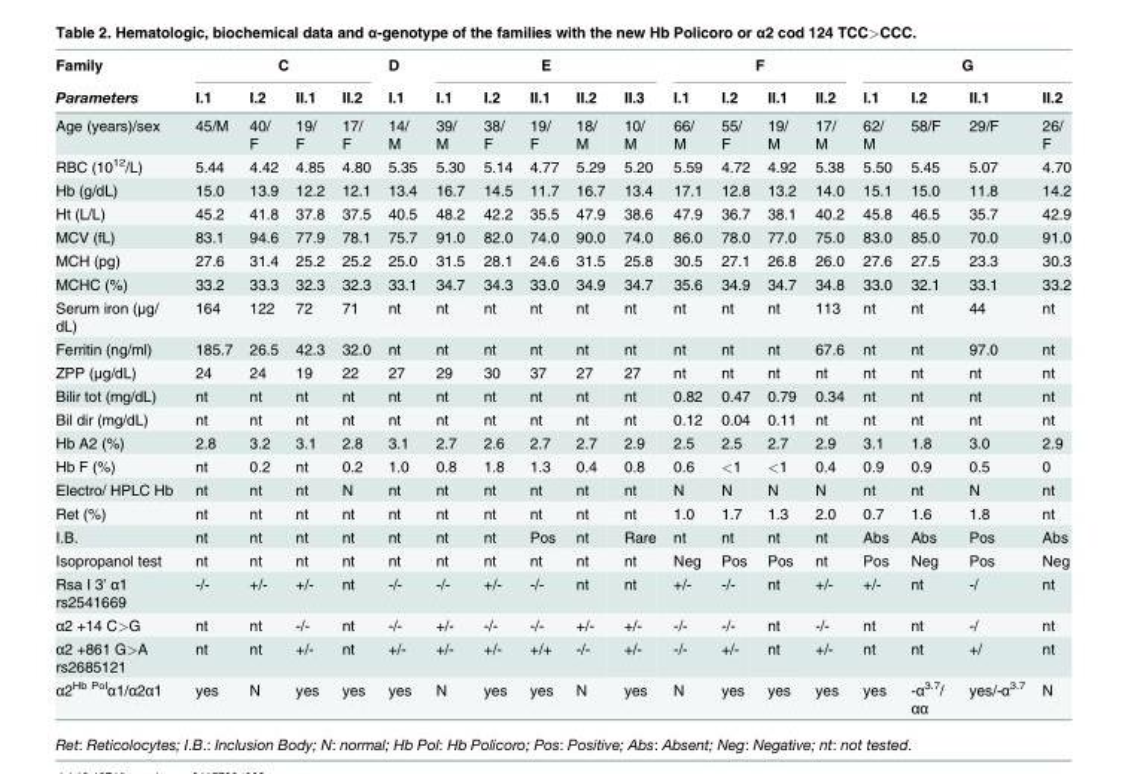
<table><thead><tr><td rowspan="2">Family Parameters</td><td colspan="4">C</td><td rowspan="2">D I.1</td><td colspan="5">E</td><td colspan="4">F</td><td colspan="4">G</td></tr><tr><td>I.1</td><td>I.2</td><td>II.1</td><td>II.2</td><td>I.1</td><td>I.2</td><td>II.1</td><td>II.2</td><td>II.3</td><td>I.1</td><td>I.2</td><td>II.1</td><td>II.2</td><td>I.1</td><td>I.2</td><td>II.1</td><td>II.2</td></tr></thead><tbody><tr><td>Age (years)/sex</td><td>45/M</td><td>40/ F</td><td>19/ F</td><td>17/ F</td><td>14/ M</td><td>39/ M</td><td>38/ F</td><td>19/ F</td><td>18/ M</td><td>10/ M</td><td>66/ M</td><td>55/ F</td><td>19/ M</td><td>17/ M</td><td>62/ M</td><td>58/F</td><td>29/F</td><td>26/ F</td></tr><tr><td>RBC (10<sup>12</sup>/L)</td><td>5.44</td><td>4.42</td><td>4.85</td><td>4.80</td><td>5.35</td><td>5.30</td><td>5.14</td><td>4.77</td><td>5.29</td><td>5.20</td><td>5.59</td><td>4.72</td><td>4.92</td><td>5.38</td><td>5.50</td><td>5.45</td><td>5.07</td><td>4.70</td></tr><tr><td>Hb (g/dL)</td><td>15.0</td><td>13.9</td><td>12.2</td><td>12.1</td><td>13.4</td><td>16.7</td><td>14.5</td><td>11.7</td><td>16.7</td><td>13.4</td><td>17.1</td><td>12.8</td><td>13.2</td><td>14.0</td><td>15.1</td><td>15.0</td><td>11.8</td><td>14.2</td></tr><tr><td>Ht (L/L)</td><td>45.2</td><td>41.8</td><td>37.8</td><td>37.5</td><td>40.5</td><td>48.2</td><td>42.2</td><td>35.5</td><td>47.9</td><td>38.6</td><td>47.9</td><td>36.7</td><td>38.1</td><td>40.2</td><td>45.8</td><td>46.5</td><td>35.7</td><td>42.9</td></tr><tr><td>MCV (fL)</td><td>83.1</td><td>94.6</td><td>77.9</td><td>78.1</td><td>75.7</td><td>91.0</td><td>82.0</td><td>74.0</td><td>90.0</td><td>74.0</td><td>86.0</td><td>78.0</td><td>77.0</td><td>75.0</td><td>83.0</td><td>85.0</td><td>70.0</td><td>91.0</td></tr><tr><td>MCH (pg)</td><td>27.6</td><td>31.4</td><td>25.2</td><td>25.2</td><td>25.0</td><td>31.5</td><td>28.1</td><td>24.6</td><td>31.5</td><td>25.8</td><td>30.5</td><td>27.1</td><td>26.8</td><td>26.0</td><td>27.6</td><td>27.5</td><td>23.3</td><td>30.3</td></tr><tr><td>MCHC (%)</td><td>33.2</td><td>33.3</td><td>32.3</td><td>32.3</td><td>33.1</td><td>34.7</td><td>34.3</td><td>33.0</td><td>34.9</td><td>34.7</td><td>35.6</td><td>34.9</td><td>34.7</td><td>34.8</td><td>33.0</td><td>32.1</td><td>33.1</td><td>33.2</td></tr><tr><td>Serum iron (μg/ dL)</td><td>164</td><td>122</td><td>72</td><td>71</td><td>nt</td><td>nt</td><td>nt</td><td>nt</td><td>nt</td><td>nt</td><td>nt</td><td>nt</td><td>nt</td><td>113</td><td>nt</td><td>nt</td><td>44</td><td>nt</td></tr><tr><td>Ferritin (ng/ml)</td><td>185.7</td><td>26.5</td><td>42.3</td><td>32.0</td><td>nt</td><td>nt</td><td>nt</td><td>nt</td><td>nt</td><td>nt</td><td>nt</td><td>nt</td><td>nt</td><td>67.6</td><td>nt</td><td>nt</td><td>97.0</td><td>nt</td></tr><tr><td>ZPP (μg/dL)</td><td>24</td><td>24</td><td>19</td><td>22</td><td>27</td><td>29</td><td>30</td><td>37</td><td>27</td><td>27</td><td>nt</td><td>nt</td><td>nt</td><td>nt</td><td>nt</td><td>nt</td><td>nt</td><td>nt</td></tr><tr><td>Bilir tot (mg/dL)</td><td>nt</td><td>nt</td><td>nt</td><td>nt</td><td>nt</td><td>nt</td><td>nt</td><td>nt</td><td>nt</td><td>nt</td><td>0.82</td><td>0.47</td><td>0.79</td><td>0.34</td><td>nt</td><td>nt</td><td>nt</td><td>nt</td></tr><tr><td>Bil dir (mg/dL)</td><td>nt</td><td>nt</td><td>nt</td><td>nt</td><td>nt</td><td>nt</td><td>nt</td><td>nt</td><td>nt</td><td>nt</td><td>0.12</td><td>0.04</td><td>0.11</td><td>nt</td><td>nt</td><td>nt</td><td>nt</td><td>nt</td></tr><tr><td>Hb A2 (%)</td><td>2.8</td><td>3.2</td><td>3.1</td><td>2.8</td><td>3.1</td><td>2.7</td><td>2.6</td><td>2.7</td><td>2.7</td><td>2.9</td><td>2.5</td><td>2.5</td><td>2.7</td><td>2.9</td><td>3.1</td><td>1.8</td><td>3.0</td><td>2.9</td></tr><tr><td>Hb F (%)</td><td>nt</td><td>0.2</td><td>nt</td><td>0.2</td><td>1.0</td><td>0.8</td><td>1.8</td><td>1.3</td><td>0.4</td><td>0.8</td><td>0.6</td><td>&lt;1</td><td>&lt;1</td><td>0.4</td><td>0.9</td><td>0.9</td><td>0.5</td><td>0</td></tr><tr><td>Electro/ HPLC Hb</td><td>nt</td><td>nt</td><td>nt</td><td>N</td><td>nt</td><td>nt</td><td>nt</td><td>nt</td><td>nt</td><td>nt</td><td>N</td><td>N</td><td>N</td><td>N</td><td>nt</td><td>nt</td><td>N</td><td>nt</td></tr><tr><td>Ret (%)</td><td>nt</td><td>nt</td><td>nt</td><td>nt</td><td>nt</td><td>nt</td><td>nt</td><td>nt</td><td>nt</td><td>nt</td><td>1.0</td><td>1.7</td><td>1.3</td><td>2.0</td><td>0.7</td><td>1.6</td><td>1.8</td><td>nt</td></tr><tr><td>I.B.</td><td>nt</td><td>nt</td><td>nt</td><td>nt</td><td>nt</td><td>nt</td><td>nt</td><td>Pos</td><td>nt</td><td>Rare</td><td>nt</td><td>nt</td><td>nt</td><td>nt</td><td>Abs</td><td>Abs</td><td>Pos</td><td>Abs</td></tr><tr><td>Isopropanol test</td><td>nt</td><td>nt</td><td>nt</td><td>nt</td><td>nt</td><td>nt</td><td>nt</td><td>nt</td><td>nt</td><td>nt</td><td>Neg</td><td>Pos</td><td>Pos</td><td>nt</td><td>Pos</td><td>Neg</td><td>Pos</td><td>Neg</td></tr><tr><td>Rsa I 3’ α1 rs2541669</td><td>-/-</td><td>+/-</td><td>+/-</td><td>nt</td><td>-/-</td><td>-/-</td><td>+/-</td><td>-/-</td><td>nt</td><td>nt</td><td>+/-</td><td>-/-</td><td>nt</td><td>+/-</td><td>+/-</td><td>nt</td><td>-/</td><td>nt</td></tr><tr><td>α2 +14 C&gt;G</td><td>nt</td><td>nt</td><td>-/-</td><td>nt</td><td>-/-</td><td>+/-</td><td>-/-</td><td>-/-</td><td>+/-</td><td>+/-</td><td>-/-</td><td>-/-</td><td>nt</td><td>-/-</td><td>nt</td><td>nt</td><td>-/</td><td>nt</td></tr><tr><td>α2 +861 G&gt;A rs2685121</td><td>nt</td><td>nt</td><td>+/-</td><td>nt</td><td>+/-</td><td>+/-</td><td>+/-</td><td>+/+</td><td>-/-</td><td>+/-</td><td>-/-</td><td>+/-</td><td>nt</td><td>+/-</td><td>nt</td><td>nt</td><td>+/</td><td>nt</td></tr><tr><td>α2Hb Polα1/α2α1</td><td>yes</td><td>N</td><td>yes</td><td>yes</td><td>yes</td><td>N</td><td>yes</td><td>yes</td><td>N</td><td>yes</td><td>N</td><td>yes</td><td>yes</td><td>yes</td><td>yes</td><td>-α<sup>3.7</sup>/ αα</td><td>yes/-α<sup>3.7</sup></td><td>N</td></tr></tbody></table>